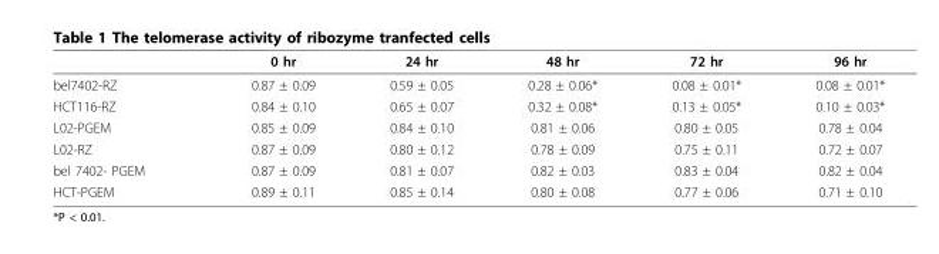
<table><thead><tr><td></td><td>0 hr</td><td>24 hr</td><td>48 hr</td><td>72 hr</td><td>96 hr</td></tr></thead><tbody><tr><td>bel7402-RZ</td><td>0.87 ± 0.09</td><td>0.59 ± 0.05</td><td>0.28 ± 0.06*</td><td>0.08 ± 0.01*</td><td>0.08 ± 0.01*</td></tr><tr><td>HCT116-RZ</td><td>0.84 ± 0.10</td><td>0.65 ± 0.07</td><td>0.32 ± 0.08*</td><td>0.13 ± 0.05*</td><td>0.10 ± 0.03*</td></tr><tr><td>L02-PGEM</td><td>0.85 ± 0.09</td><td>0.84 ± 0.10</td><td>0.81 ± 0.06</td><td>0.80 ± 0.05</td><td>0.78 ± 0.04</td></tr><tr><td>L02-RZ</td><td>0.87 ± 0.09</td><td>0.80 ± 0.12</td><td>0.78 ± 0.09</td><td>0.75 ± 0.11</td><td>0.72 ± 0.07</td></tr><tr><td>bel 7402- PGEM</td><td>0.87 ± 0.09</td><td>0.81 ± 0.07</td><td>0.82 ± 0.03</td><td>0.83 ± 0.04</td><td>0.82 ± 0.04</td></tr><tr><td>HCT-PGEM</td><td>0.89 ± 0.11</td><td>0.85 ± 0.14</td><td>0.80 ± 0.08</td><td>0.77 ± 0.06</td><td>0.71 ± 0.10</td></tr></tbody></table>